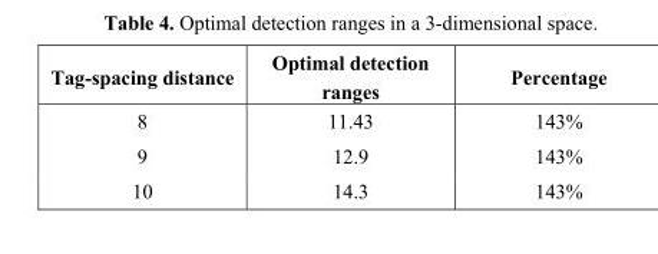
<table><thead><tr><td>Tag-spacing distance</td><td>Optimal detection ranges</td><td>Percentage</td></tr></thead><tbody><tr><td>8</td><td>11.43</td><td>143%</td></tr><tr><td>9</td><td>12.9</td><td>143%</td></tr><tr><td>10</td><td>14.3</td><td>143%</td></tr></tbody></table>